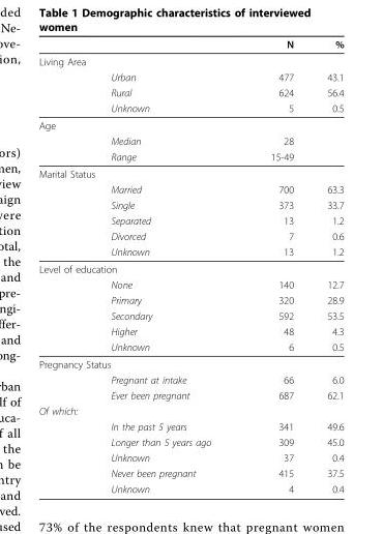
<table><thead><tr><td></td><td></td><td>N</td><td>%</td></tr></thead><tbody><tr><td colspan="4">Living Area</td></tr><tr><td></td><td>Urban</td><td>477</td><td>43.1</td></tr><tr><td></td><td>Rural</td><td>624</td><td>56.4</td></tr><tr><td></td><td>Unknown</td><td>5</td><td>0.5</td></tr><tr><td colspan="4">Age</td></tr><tr><td></td><td>Median</td><td>28</td><td></td></tr><tr><td></td><td>Range</td><td>15-49</td><td></td></tr><tr><td colspan="4">Marital Status</td></tr><tr><td></td><td>Married</td><td>700</td><td>63.3</td></tr><tr><td></td><td>Single</td><td>373</td><td>33.7</td></tr><tr><td></td><td>Separated</td><td>13</td><td>1.2</td></tr><tr><td></td><td>Divorced</td><td>7</td><td>0.6</td></tr><tr><td></td><td>Unknown</td><td>13</td><td>1.2</td></tr><tr><td colspan="4">Level of education</td></tr><tr><td></td><td>None</td><td>140</td><td>12.7</td></tr><tr><td></td><td>Primary</td><td>320</td><td>28.9</td></tr><tr><td></td><td>Secondary</td><td>592</td><td>53.5</td></tr><tr><td></td><td>Higher</td><td>48</td><td>4.3</td></tr><tr><td></td><td>Unknown</td><td>6</td><td>0.5</td></tr><tr><td colspan="4">Pregnancy Status</td></tr><tr><td></td><td>Pregnant at intake</td><td>66</td><td>6.0</td></tr><tr><td></td><td>Ever been pregnant</td><td>687</td><td>62.1</td></tr><tr><td colspan="4">Of which:</td></tr><tr><td></td><td>In the past 5 years</td><td>341</td><td>49.6</td></tr><tr><td></td><td>Longer than 5 years ago</td><td>309</td><td>45.0</td></tr><tr><td></td><td>Unknown</td><td>37</td><td>0.4</td></tr><tr><td></td><td>Never been pregnant</td><td>415</td><td>37.5</td></tr><tr><td></td><td>Unknown</td><td>4</td><td>0.4</td></tr></tbody></table>